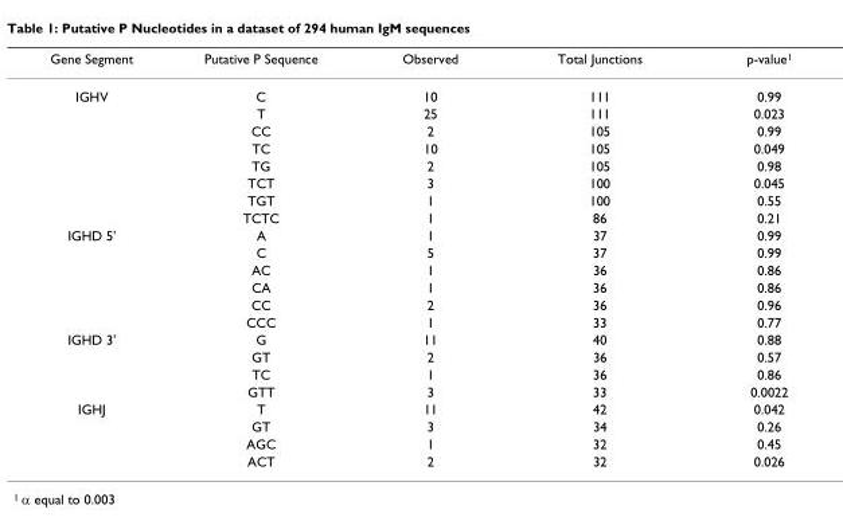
<table><thead><tr><td>Gene Segment</td><td>Putative P Sequence</td><td>Observed</td><td>Total Junctions</td><td>p-value<sup>1</sup></td></tr></thead><tbody><tr><td rowspan="8">IGHV</td><td>C</td><td>10</td><td>111</td><td>0.99</td></tr><tr><td>T</td><td>25</td><td>111</td><td>0.023</td></tr><tr><td>CC</td><td>2</td><td>105</td><td>0.99</td></tr><tr><td>TC</td><td>10</td><td>105</td><td>0.049</td></tr><tr><td>TG</td><td>2</td><td>105</td><td>0.98</td></tr><tr><td>TCT</td><td>3</td><td>100</td><td>0.045</td></tr><tr><td>TGT</td><td>1</td><td>100</td><td>0.55</td></tr><tr><td>TCTC</td><td>1</td><td>86</td><td>0.21</td></tr><tr><td rowspan="6">IGHD 5&#x27;</td><td>A</td><td>1</td><td>37</td><td>0.99</td></tr><tr><td>C</td><td>5</td><td>37</td><td>0.99</td></tr><tr><td>AC</td><td>1</td><td>36</td><td>0.86</td></tr><tr><td>CA</td><td>1</td><td>36</td><td>0.86</td></tr><tr><td>CC</td><td>2</td><td>36</td><td>0.96</td></tr><tr><td>CCC</td><td>1</td><td>33</td><td>0.77</td></tr><tr><td rowspan="4">IGHD 3&#x27;</td><td>G</td><td>11</td><td>40</td><td>0.88</td></tr><tr><td>GT</td><td>2</td><td>36</td><td>0.57</td></tr><tr><td>TC</td><td>1</td><td>36</td><td>0.86</td></tr><tr><td>GTT</td><td>3</td><td>33</td><td>0.0022</td></tr><tr><td rowspan="4">IGHJ</td><td>T</td><td>11</td><td>42</td><td>0.042</td></tr><tr><td>GT</td><td>3</td><td>34</td><td>0.26</td></tr><tr><td>AGC</td><td>1</td><td>32</td><td>0.45</td></tr><tr><td>ACT</td><td>2</td><td>32</td><td>0.026</td></tr></tbody></table>